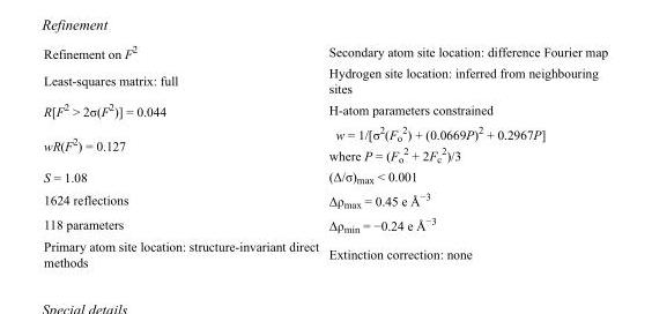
<table><tbody><tr><td>Refinement on F<sup>2</sup></td><td>Secondary atom site location: difference Fourier map</td></tr><tr><td>Least-squares matrix: full</td><td>Hydrogen site location: inferred from neighbouring sites</td></tr><tr><td>R[F<sup>2</sup> &gt; 2σ(F<sup>2</sup>)] = 0.044</td><td>H-atom parameters constrained</td></tr><tr><td>wR(F<sup>2</sup>) = 0.127</td><td>w = 1/[σ<sup>2</sup>(F<sub>o</sub> <sup>2</sup>) + (0.0669P)<sup>2</sup> + 0.2967P] where P = (F<sub>o</sub> <sup>2</sup> + 2F<sub>c</sub> <sup>2</sup>)/3</td></tr><tr><td>S = 1.08</td><td>(Δ/σ)<sub>max</sub> &lt; 0.001</td></tr><tr><td>1624 reflections</td><td>Δρ<sub>max</sub> = 0.45 e Å<sup>−3</sup></td></tr><tr><td>118 parameters</td><td>Δρ<sub>min</sub> = −0.24 e Å<sup>−3</sup></td></tr><tr><td>Primary atom site location: structure-invariant direct methods</td><td>Extinction correction: none</td></tr></tbody></table>